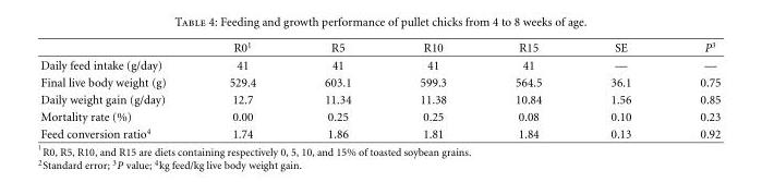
<table><thead><tr><td></td><td>R0<sup>1</sup></td><td>R5</td><td>R10</td><td>R15</td><td>SE</td><td>P<sup>3</sup></td></tr></thead><tbody><tr><td>Daily feed intake (g/day)</td><td>41</td><td>41</td><td>41</td><td>41</td><td>—</td><td>—</td></tr><tr><td>Final live body weight (g)</td><td>529.4</td><td>603.1</td><td>599.3</td><td>564.5</td><td>36.1</td><td>0.75</td></tr><tr><td>Daily weight gain (g/day)</td><td>12.7</td><td>11.34</td><td>11.38</td><td>10.84</td><td>1.56</td><td>0.85</td></tr><tr><td>Mortality rate (%)</td><td>0.00</td><td>0.25</td><td>0.25</td><td>0.08</td><td>0.10</td><td>0.23</td></tr><tr><td>Feed conversion ratio<sup>4</sup></td><td>1.74</td><td>1.86</td><td>1.81</td><td>1.84</td><td>0.13</td><td>0.92</td></tr></tbody></table>